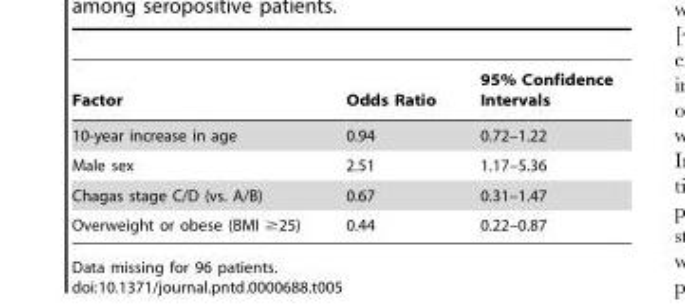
<table><thead><tr><td>Factor</td><td>Odds Ratio</td><td>95% Confidence Intervals</td></tr></thead><tbody><tr><td>10-year increase in age</td><td>0.94</td><td>0.72–1.22</td></tr><tr><td>Male sex</td><td>2.51</td><td>1.17–5.36</td></tr><tr><td>Chagas stage C/D (vs. A/B)</td><td>0.67</td><td>0.31–1.47</td></tr><tr><td>Overweight or obese (BMI ≥25)</td><td>0.44</td><td>0.22–0.87</td></tr></tbody></table>